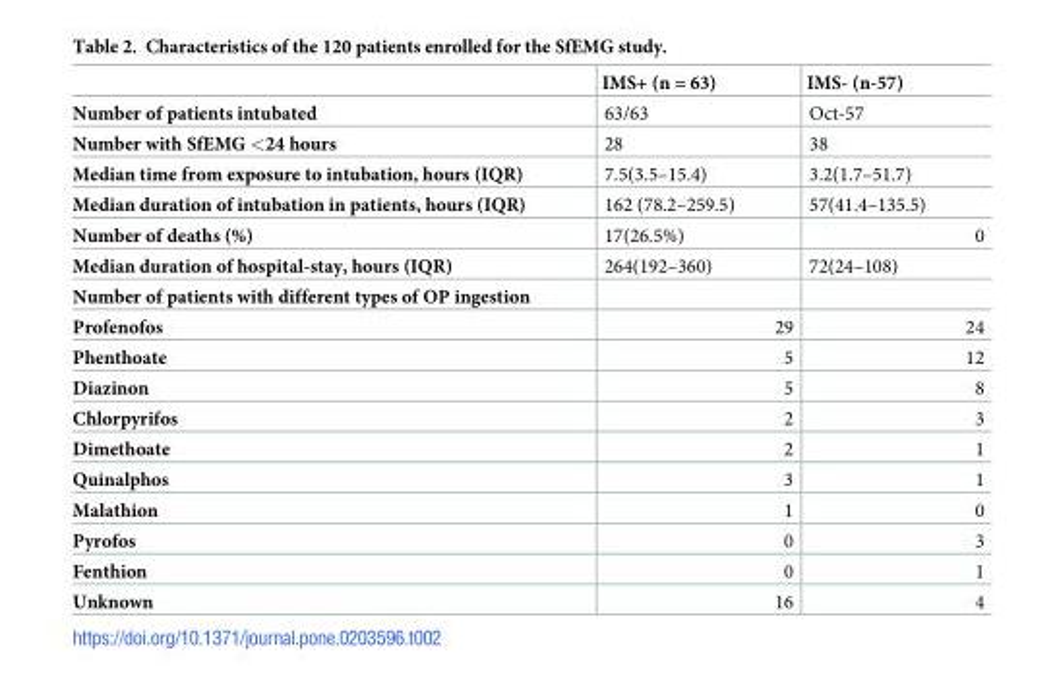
<table><thead><tr><td></td><td>IMS+ (n = 63)</td><td>IMS- (n-57)</td></tr></thead><tbody><tr><td>Number of patients intubated</td><td>63/63</td><td>Oct-57</td></tr><tr><td>Number with SfEMG &lt;24 hours</td><td>28</td><td>38</td></tr><tr><td>Median time from exposure to intubation, hours (IQR)</td><td>7.5(3.5–15.4)</td><td>3.2(1.7–51.7)</td></tr><tr><td>Median duration of intubation in patients, hours (IQR)</td><td>162 (78.2–259.5)</td><td>57(41.4–135.5)</td></tr><tr><td>Number of deaths (%)</td><td>17(26.5%)</td><td>0</td></tr><tr><td>Median duration of hospital-stay, hours (IQR)</td><td>264(192–360)</td><td>72(24–108)</td></tr><tr><td colspan="3">Number of patients with different types of OP ingestion</td></tr><tr><td>Profenofos</td><td>29</td><td>24</td></tr><tr><td>Phenthoate</td><td>5</td><td>12</td></tr><tr><td>Diazinon</td><td>5</td><td>8</td></tr><tr><td>Chlorpyrifos</td><td>2</td><td>3</td></tr><tr><td>Dimethoate</td><td>2</td><td>1</td></tr><tr><td>Quinalphos</td><td>3</td><td>1</td></tr><tr><td>Malathion</td><td>1</td><td>0</td></tr><tr><td>Pyrofos</td><td>0</td><td>3</td></tr><tr><td>Fenthion</td><td>0</td><td>1</td></tr><tr><td>Unknown</td><td>16</td><td>4</td></tr></tbody></table>